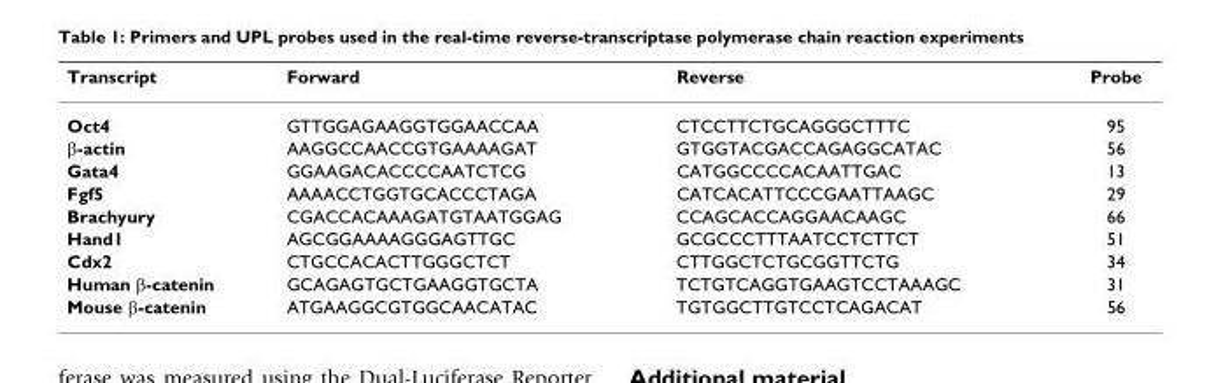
<table><thead><tr><td>Transcript</td><td>Forward</td><td>Reverse</td><td>Probe</td></tr></thead><tbody><tr><td>Oct4</td><td>GTTGGAGAAGGTGGAACCAA</td><td>CTCCTTCTGCAGGGCTTTC</td><td>95</td></tr><tr><td>β-actin</td><td>AAGGCCAACCGTGAAAAGAT</td><td>GTGGTACGACCAGAGGCATAC</td><td>56</td></tr><tr><td>Gata4</td><td>GGAAGACACCCCAATCTCG</td><td>CATGGCCCCACAATTGAC</td><td>13</td></tr><tr><td>Fgf5</td><td>AAAACCTGGTGCACCCTAGA</td><td>CATCACATTCCCGAATTAAGC</td><td>29</td></tr><tr><td>Brachyury</td><td>CGACCACAAAGATGTAATGGAG</td><td>CCAGCACCAGGAACAAGC</td><td>66</td></tr><tr><td>Hand1</td><td>AGCGGAAAAGGGAGTTGC</td><td>GCGCCCTTTAATCCTCTTCT</td><td>51</td></tr><tr><td>Cdx2</td><td>CTGCCACACTTGGGCTCT</td><td>CTTGGCTCTGCGGTTCTG</td><td>34</td></tr><tr><td>Human β-catenin</td><td>GCAGAGTGCTGAAGGTGCTA</td><td>TCTGTCAGGTGAAGTCCTAAAGC</td><td>31</td></tr><tr><td>Mouse β-catenin</td><td>ATGAAGGCGTGGCAACATAC</td><td>TGTGGCTTGTCCTCAGACAT</td><td>56</td></tr></tbody></table>